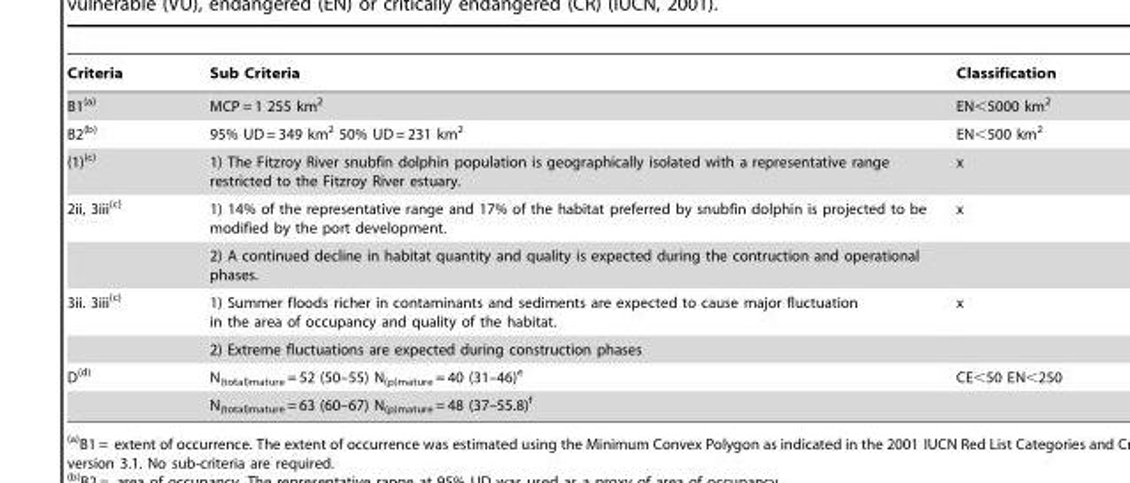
<table><thead><tr><td>Criteria</td><td>Sub Criteria</td><td>Classification</td></tr></thead><tbody><tr><td>B1(a)</td><td>MCP = 1 255 km<sup>2</sup></td><td>EN&lt;5000 km<sup>2</sup></td></tr><tr><td>B2(b)</td><td>95% UD = 349 km<sup>2</sup> 50% UD = 231 km<sup>2</sup></td><td>EN&lt;500 km<sup>2</sup></td></tr><tr><td>(1)(c)</td><td>1) The Fitzroy River snubfin dolphin population is geographically isolated with a representative range restricted to the Fitzroy River estuary.</td><td>x</td></tr><tr><td rowspan="2">2ii, 3iii(c)</td><td>1) 14% of the representative range and 17% of the habitat preferred by snubfin dolphin is projected to be modified by the port development.</td><td>x</td></tr><tr><td>2) A continued decline in habitat quantity and quality is expected during the contruction and operational phases.</td><td></td></tr><tr><td rowspan="2">3ii. 3iii(c)</td><td>1) Summer floods richer in contaminants and sediments are expected to cause major fluctuation in the area of occupancy and quality of the habitat.</td><td>x</td></tr><tr><td>2) Extreme fluctuations are expected during construction phases</td><td></td></tr><tr><td rowspan="2">D(d)</td><td>N<sub>(total)mature</sub> = 52 (50–55) N<sub>(p)mature</sub> = 40 (31–46)<sup>e</sup></td><td>CE&lt;50 EN&lt;250</td></tr><tr><td>N<sub>(total)mature</sub> = 63 (60–67) N<sub>(p)mature</sub> = 48 (37–55.8)<sup>f</sup></td><td></td></tr></tbody></table>